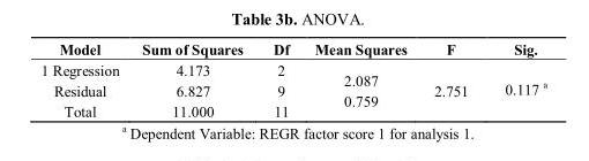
<table><thead><tr><td>Model</td><td>Sum of Squares</td><td>Df</td><td>Mean Squares</td><td>F</td><td>Sig.</td></tr></thead><tbody><tr><td>1 Regression Residual Total</td><td>4.173 6.827 11.000</td><td>2 9 11</td><td>2.087 0.759</td><td>2.751</td><td>0.117 <sup>a</sup></td></tr></tbody></table>